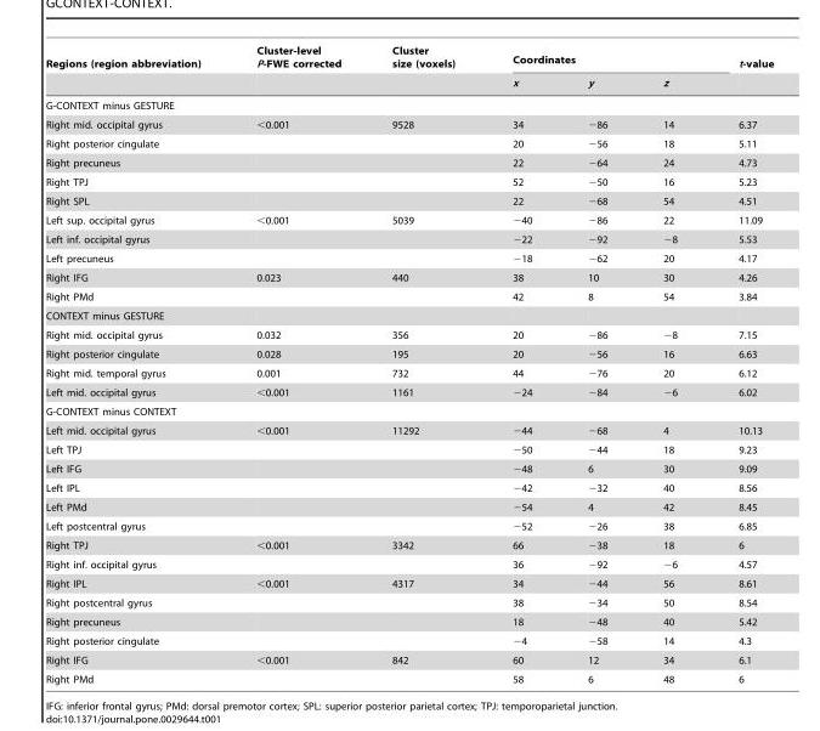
<table><thead><tr><td rowspan="2">Regions (region abbreviation)</td><td rowspan="2">Cluster-level P-FWE corrected</td><td rowspan="2">Cluster size (voxels)</td><td colspan="3">Coordinates</td><td rowspan="2">t-value</td></tr><tr><td>x</td><td>y</td><td>z</td></tr></thead><tbody><tr><td colspan="7">G-CONTEXT minus GESTURE</td></tr><tr><td>Right mid. occipital gyrus</td><td>&lt;0.001</td><td>9528</td><td>34</td><td>−86</td><td>14</td><td>6.37</td></tr><tr><td>Right posterior cingulate</td><td></td><td></td><td>20</td><td>−56</td><td>18</td><td>5.11</td></tr><tr><td>Right precuneus</td><td></td><td></td><td>22</td><td>−64</td><td>24</td><td>4.73</td></tr><tr><td>Right TPJ</td><td></td><td></td><td>52</td><td>−50</td><td>16</td><td>5.23</td></tr><tr><td>Right SPL</td><td></td><td></td><td>22</td><td>−68</td><td>54</td><td>4.51</td></tr><tr><td>Left sup. occipital gyrus</td><td>&lt;0.001</td><td>5039</td><td>−40</td><td>−86</td><td>22</td><td>11.09</td></tr><tr><td>Left inf. occipital gyrus</td><td></td><td></td><td>−22</td><td>−92</td><td>−8</td><td>5.53</td></tr><tr><td>Left precuneus</td><td></td><td></td><td>−18</td><td>−62</td><td>20</td><td>4.17</td></tr><tr><td>Right IFG</td><td>0.023</td><td>440</td><td>38</td><td>10</td><td>30</td><td>4.26</td></tr><tr><td>Right PMd</td><td></td><td></td><td>42</td><td>8</td><td>54</td><td>3.84</td></tr><tr><td colspan="7">CONTEXT minus GESTURE</td></tr><tr><td>Right mid. occipital gyrus</td><td>0.032</td><td>356</td><td>20</td><td>−86</td><td>−8</td><td>7.15</td></tr><tr><td>Right posterior cingulate</td><td>0.028</td><td>195</td><td>20</td><td>−56</td><td>16</td><td>6.63</td></tr><tr><td>Right mid. temporal gyrus</td><td>0.001</td><td>732</td><td>44</td><td>−76</td><td>20</td><td>6.12</td></tr><tr><td>Left mid. occipital gyrus</td><td>&lt;0.001</td><td>1161</td><td>−24</td><td>−84</td><td>−6</td><td>6.02</td></tr><tr><td colspan="7">G-CONTEXT minus CONTEXT</td></tr><tr><td>Left mid. occipital gyrus</td><td>&lt;0.001</td><td>11292</td><td>−44</td><td>−68</td><td>4</td><td>10.13</td></tr><tr><td>Left TPJ</td><td></td><td></td><td>−50</td><td>−44</td><td>18</td><td>9.23</td></tr><tr><td>Left IFG</td><td></td><td></td><td>−48</td><td>6</td><td>30</td><td>9.09</td></tr><tr><td>Left IPL</td><td></td><td></td><td>−42</td><td>−32</td><td>40</td><td>8.56</td></tr><tr><td>Left PMd</td><td></td><td></td><td>−54</td><td>4</td><td>42</td><td>8.45</td></tr><tr><td>Left postcentral gyrus</td><td></td><td></td><td>−52</td><td>−26</td><td>38</td><td>6.85</td></tr><tr><td>Right TPJ</td><td>&lt;0.001</td><td>3342</td><td>66</td><td>−38</td><td>18</td><td>6</td></tr><tr><td>Right inf. occipital gyrus</td><td></td><td></td><td>36</td><td>−92</td><td>−6</td><td>4.57</td></tr><tr><td>Right IPL</td><td>&lt;0.001</td><td>4317</td><td>34</td><td>−44</td><td>56</td><td>8.61</td></tr><tr><td>Right postcentral gyrus</td><td></td><td></td><td>38</td><td>−34</td><td>50</td><td>8.54</td></tr><tr><td>Right precuneus</td><td></td><td></td><td>18</td><td>−48</td><td>40</td><td>5.42</td></tr><tr><td>Right posterior cingulate</td><td></td><td></td><td>−4</td><td>−58</td><td>14</td><td>4.3</td></tr><tr><td>Right IFG</td><td>&lt;0.001</td><td>842</td><td>60</td><td>12</td><td>34</td><td>6.1</td></tr><tr><td>Right PMd</td><td></td><td></td><td>58</td><td>6</td><td>48</td><td>6</td></tr></tbody></table>